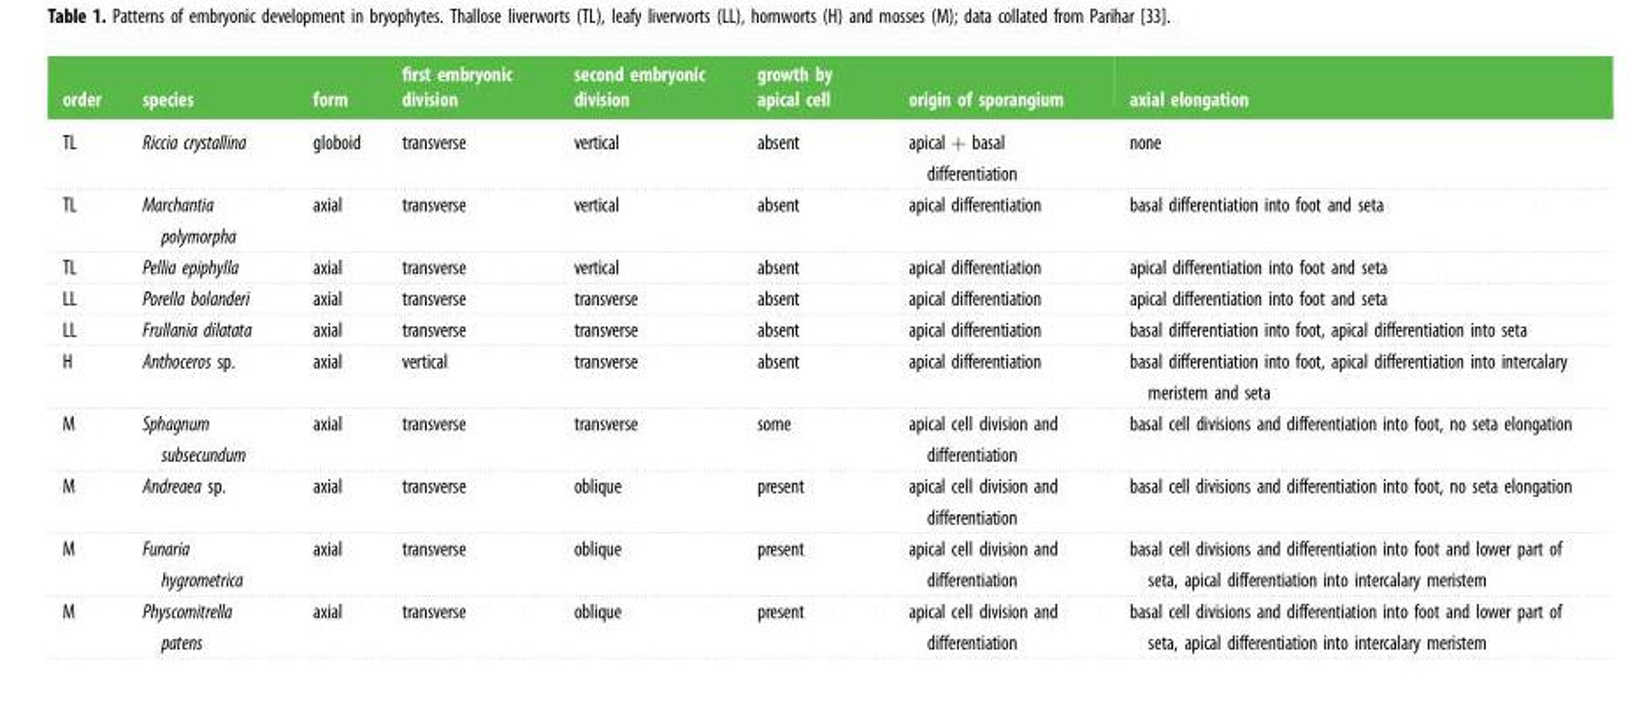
<table><thead><tr><td>order</td><td>species</td><td>form</td><td>first embryonic division</td><td>second embryonic division</td><td>growth by apical cell</td><td>origin of sporangium</td><td>axial elongation</td></tr></thead><tbody><tr><td>TL</td><td>Riccia crystallina</td><td>globoid</td><td>transverse</td><td>vertical</td><td>absent</td><td>apical + basal differentiation</td><td>none</td></tr><tr><td>TL</td><td>Marchantia polymorpha</td><td>axial</td><td>transverse</td><td>vertical</td><td>absent</td><td>apical differentiation</td><td>basal differentiation into foot and seta</td></tr><tr><td>TL</td><td>Pellia epiphylla</td><td>axial</td><td>transverse</td><td>vertical</td><td>absent</td><td>apical differentiation</td><td>apical differentiation into foot and seta</td></tr><tr><td>LL</td><td>Porella bolanderi</td><td>axial</td><td>transverse</td><td>transverse</td><td>absent</td><td>apical differentiation</td><td>apical differentiation into foot and seta</td></tr><tr><td>LL</td><td>Frullania dilatata</td><td>axial</td><td>transverse</td><td>transverse</td><td>absent</td><td>apical differentiation</td><td>basal differentiation into foot, apical differentiation into seta</td></tr><tr><td>H</td><td>Anthoceros sp.</td><td>axial</td><td>vertical</td><td>transverse</td><td>absent</td><td>apical differentiation</td><td>basal differentiation into foot, apical differentiation into intercalary meristem and seta</td></tr><tr><td>M</td><td>Sphagnum subsecundum</td><td>axial</td><td>transverse</td><td>transverse</td><td>some</td><td>apical cell division and differentiation</td><td>basal cell divisions and differentiation into foot, no seta elongation</td></tr><tr><td>M</td><td>Andreaea sp.</td><td>axial</td><td>transverse</td><td>oblique</td><td>present</td><td>apical cell division and differentiation</td><td>basal cell divisions and differentiation into foot, no seta elongation</td></tr><tr><td>M</td><td>Funaria hygrometrica</td><td>axial</td><td>transverse</td><td>oblique</td><td>present</td><td>apical cell division and differentiation</td><td>basal cell divisions and differentiation into foot and lower part of seta, apical differentiation into intercalary meristem</td></tr><tr><td>M</td><td>Physcomitrella patens</td><td>axial</td><td>transverse</td><td>oblique</td><td>present</td><td>apical cell division and differentiation</td><td>basal cell divisions and differentiation into foot and lower part of seta, apical differentiation into intercalary meristem</td></tr></tbody></table>